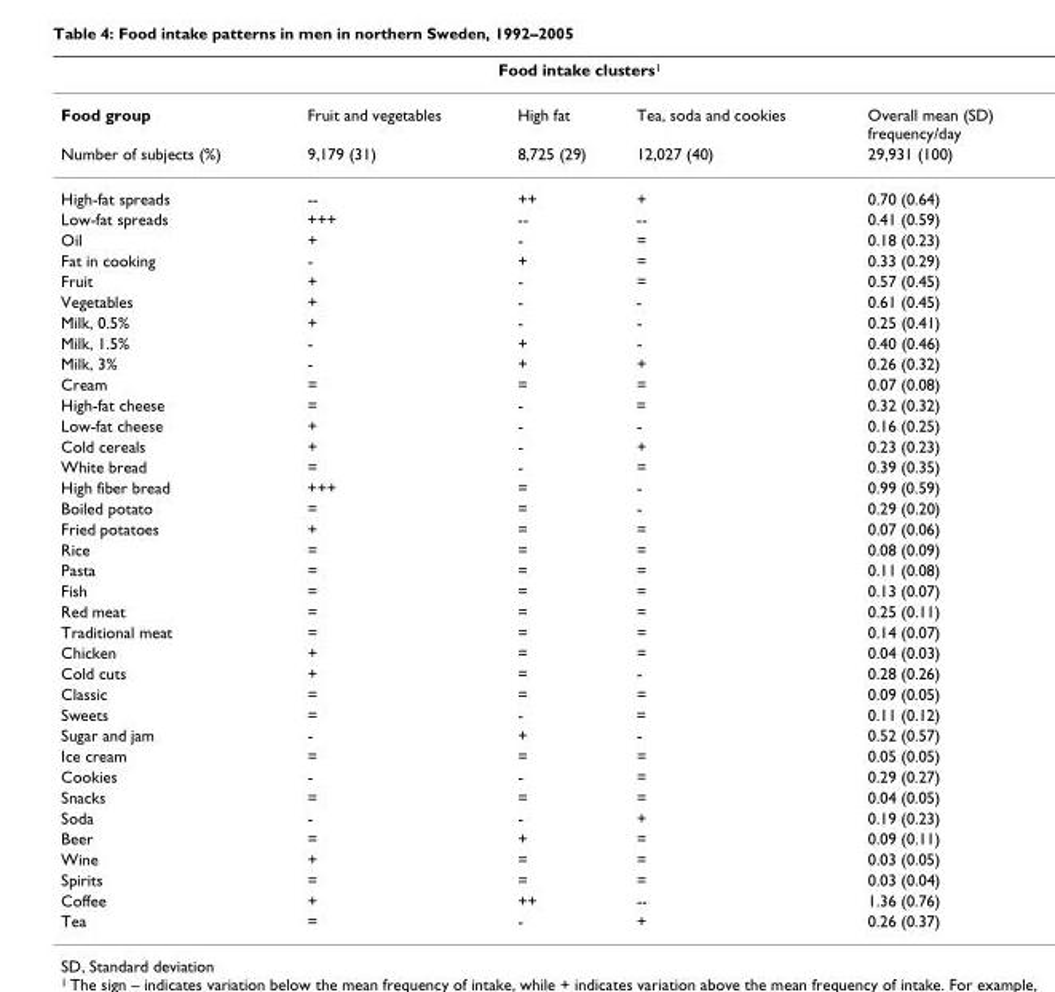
<table><thead><tr><td rowspan="2">Food group</td><td colspan="3">Food intake clusters<sup>1</sup></td><td rowspan="2">Overall mean (SD) frequency/day</td></tr><tr><td>Fruit and vegetables</td><td>High fat</td><td>Tea, soda and cookies</td></tr></thead><tbody><tr><td>Number of subjects (%)</td><td>9,179 (31)</td><td>8,725 (29)</td><td>12,027 (40)</td><td>29,931 (100)</td></tr><tr><td>High-fat spreads</td><td>--</td><td>++</td><td>+</td><td>0.70 (0.64)</td></tr><tr><td>Low-fat spreads</td><td>+++</td><td>--</td><td>--</td><td>0.41 (0.59)</td></tr><tr><td>Oil</td><td>+</td><td>-</td><td>=</td><td>0.18 (0.23)</td></tr><tr><td>Fat in cooking</td><td>-</td><td>+</td><td>=</td><td>0.33 (0.29)</td></tr><tr><td>Fruit</td><td>+</td><td>-</td><td>=</td><td>0.57 (0.45)</td></tr><tr><td>Vegetables</td><td>+</td><td>-</td><td>-</td><td>0.61 (0.45)</td></tr><tr><td>Milk, 0.5%</td><td>+</td><td>-</td><td>-</td><td>0.25 (0.41)</td></tr><tr><td>Milk, 1.5%</td><td>-</td><td>+</td><td>-</td><td>0.40 (0.46)</td></tr><tr><td>Milk, 3%</td><td>-</td><td>+</td><td>+</td><td>0.26 (0.32)</td></tr><tr><td>Cream</td><td>=</td><td>=</td><td>=</td><td>0.07 (0.08)</td></tr><tr><td>High-fat cheese</td><td>=</td><td>-</td><td>=</td><td>0.32 (0.32)</td></tr><tr><td>Low-fat cheese</td><td>+</td><td>-</td><td>-</td><td>0.16 (0.25)</td></tr><tr><td>Cold cereals</td><td>+</td><td>-</td><td>+</td><td>0.23 (0.23)</td></tr><tr><td>White bread</td><td>=</td><td>-</td><td>=</td><td>0.39 (0.35)</td></tr><tr><td>High fiber bread</td><td>+++</td><td>=</td><td>-</td><td>0.99 (0.59)</td></tr><tr><td>Boiled potato</td><td>=</td><td>=</td><td>-</td><td>0.29 (0.20)</td></tr><tr><td>Fried potatoes</td><td>+</td><td>=</td><td>=</td><td>0.07 (0.06)</td></tr><tr><td>Rice</td><td>=</td><td>=</td><td>=</td><td>0.08 (0.09)</td></tr><tr><td>Pasta</td><td>=</td><td>=</td><td>=</td><td>0.11 (0.08)</td></tr><tr><td>Fish</td><td>=</td><td>=</td><td>=</td><td>0.13 (0.07)</td></tr><tr><td>Red meat</td><td>=</td><td>=</td><td>=</td><td>0.25 (0.11)</td></tr><tr><td>Traditional meat</td><td>=</td><td>=</td><td>=</td><td>0.14 (0.07)</td></tr><tr><td>Chicken</td><td>+</td><td>=</td><td>=</td><td>0.04 (0.03)</td></tr><tr><td>Cold cuts</td><td>+</td><td>=</td><td>-</td><td>0.28 (0.26)</td></tr><tr><td>Classic</td><td>=</td><td>=</td><td>=</td><td>0.09 (0.05)</td></tr><tr><td>Sweets</td><td>=</td><td>-</td><td>=</td><td>0.11 (0.12)</td></tr><tr><td>Sugar and jam</td><td>-</td><td>+</td><td>-</td><td>0.52 (0.57)</td></tr><tr><td>Ice cream</td><td>=</td><td>=</td><td>=</td><td>0.05 (0.05)</td></tr><tr><td>Cookies</td><td>-</td><td>-</td><td>=</td><td>0.29 (0.27)</td></tr><tr><td>Snacks</td><td>=</td><td>=</td><td>=</td><td>0.04 (0.05)</td></tr><tr><td>Soda</td><td>-</td><td>-</td><td>+</td><td>0.19 (0.23)</td></tr><tr><td>Beer</td><td>=</td><td>+</td><td>=</td><td>0.09 (0.11)</td></tr><tr><td>Wine</td><td>+</td><td>=</td><td>=</td><td>0.03 (0.05)</td></tr><tr><td>Spirits</td><td>=</td><td>=</td><td>=</td><td>0.03 (0.04)</td></tr><tr><td>Coffee</td><td>+</td><td>++</td><td>--</td><td>1.36 (0.76)</td></tr><tr><td>Tea</td><td>=</td><td>-</td><td>+</td><td>0.26 (0.37)</td></tr></tbody></table>